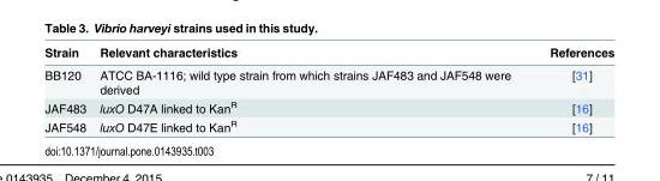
<table><thead><tr><td>Strain</td><td>Relevant characteristics</td><td>References</td></tr></thead><tbody><tr><td>BB120</td><td>ATCC BA-1116; wild type strain from which strains JAF483 and JAF548 were derived</td><td>[31]</td></tr><tr><td>JAF483</td><td>luxO D47A linked to Kan<sup>R</sup></td><td>[16]</td></tr><tr><td>JAF548</td><td>luxO D47E linked to Kan<sup>R</sup></td><td>[16]</td></tr></tbody></table>